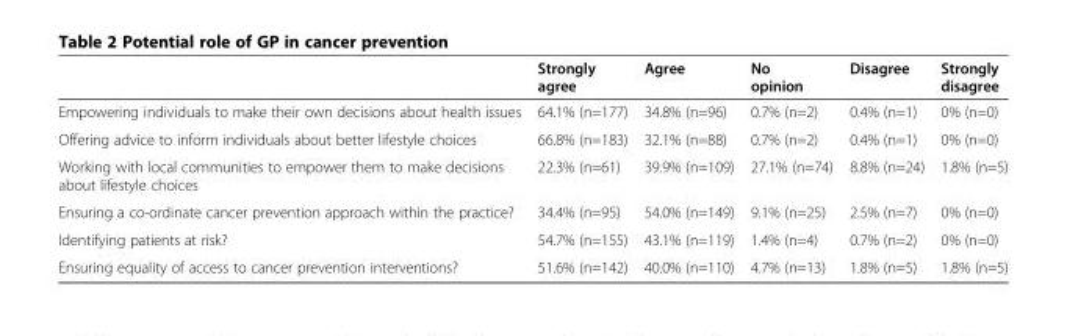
<table><thead><tr><td></td><td>Strongly agree</td><td>Agree</td><td>No opinion</td><td>Disagree</td><td>Strongly disagree</td></tr></thead><tbody><tr><td>Empowering individuals to make their own decisions about health issues</td><td>64.1% (n=177)</td><td>34.8% (n=96)</td><td>0.7% (n=2)</td><td>0.4% (n=1)</td><td>0% (n=0)</td></tr><tr><td>Offering advice to inform individuals about better lifestyle choices</td><td>66.8% (n=183)</td><td>32.1% (n=88)</td><td>0.7% (n=2)</td><td>0.4% (n=1)</td><td>0% (n=0)</td></tr><tr><td>Working with local communities to empower them to make decisions about lifestyle choices</td><td>22.3% (n=61)</td><td>39.9% (n=109)</td><td>27.1% (n=74)</td><td>8.8% (n=24)</td><td>1.8% (n=5)</td></tr><tr><td>Ensuring a co-ordinate cancer prevention approach within the practice?</td><td>34.4% (n=95)</td><td>54.0% (n=149)</td><td>9.1% (n=25)</td><td>2.5% (n=7)</td><td>0% (n=0)</td></tr><tr><td>Identifying patients at risk?</td><td>54.7% (n=155)</td><td>43.1% (n=119)</td><td>1.4% (n=4)</td><td>0.7% (n=2)</td><td>0% (n=0)</td></tr><tr><td>Ensuring equality of access to cancer prevention interventions?</td><td>51.6% (n=142)</td><td>40.0% (n=110)</td><td>4.7% (n=13)</td><td>1.8% (n=5)</td><td>1.8% (n=5)</td></tr></tbody></table>